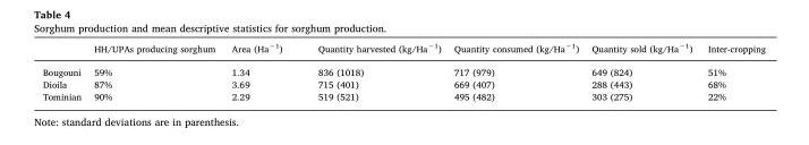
<table><thead><tr><td></td><td>HH/UPAs producing sorghum</td><td>Area (Ha<sup>−1</sup>)</td><td>Quantity harvested (kg/Ha<sup>−1</sup>)</td><td>Quantity consumed (kg/Ha<sup>−1</sup>)</td><td>Quantity sold (kg/Ha<sup>−1</sup>)</td><td>Inter-cropping</td></tr></thead><tbody><tr><td>Bougouni</td><td>59%</td><td>1.34</td><td>836 (1018)</td><td>717 (979)</td><td>649 (824)</td><td>51%</td></tr><tr><td>Dioila</td><td>87%</td><td>3.69</td><td>715 (401)</td><td>669 (407)</td><td>288 (443)</td><td>68%</td></tr><tr><td>Tominian</td><td>90%</td><td>2.29</td><td>519 (521)</td><td>495 (482)</td><td>303 (275)</td><td>22%</td></tr></tbody></table>